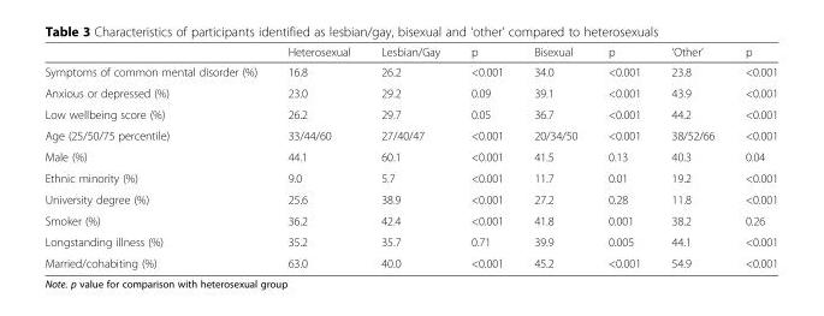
<table><thead><tr><td></td><td>Heterosexual</td><td>Lesbian/Gay</td><td>p</td><td>Bisexual</td><td>p</td><td>‘Other’</td><td>p</td></tr></thead><tbody><tr><td>Symptoms of common mental disorder (%)</td><td>16.8</td><td>26.2</td><td>&lt;0.001</td><td>34.0</td><td>&lt;0.001</td><td>23.8</td><td>&lt;0.001</td></tr><tr><td>Anxious or depressed (%)</td><td>23.0</td><td>29.2</td><td>0.09</td><td>39.1</td><td>&lt;0.001</td><td>43.9</td><td>&lt;0.001</td></tr><tr><td>Low wellbeing score (%)</td><td>26.2</td><td>29.7</td><td>0.05</td><td>36.7</td><td>&lt;0.001</td><td>44.2</td><td>&lt;0.001</td></tr><tr><td>Age (25/50/75 percentile)</td><td>33/44/60</td><td>27/40/47</td><td>&lt;0.001</td><td>20/34/50</td><td>&lt;0.001</td><td>38/52/66</td><td>&lt;0.001</td></tr><tr><td>Male (%)</td><td>44.1</td><td>60.1</td><td>&lt;0.001</td><td>41.5</td><td>0.13</td><td>40.3</td><td>0.04</td></tr><tr><td>Ethnic minority (%)</td><td>9.0</td><td>5.7</td><td>&lt;0.001</td><td>11.7</td><td>0.01</td><td>19.2</td><td>&lt;0.001</td></tr><tr><td>University degree (%)</td><td>25.6</td><td>38.9</td><td>&lt;0.001</td><td>27.2</td><td>0.28</td><td>11.8</td><td>&lt;0.001</td></tr><tr><td>Smoker (%)</td><td>36.2</td><td>42.4</td><td>&lt;0.001</td><td>41.8</td><td>0.001</td><td>38.2</td><td>0.26</td></tr><tr><td>Longstanding illness (%)</td><td>35.2</td><td>35.7</td><td>0.71</td><td>39.9</td><td>0.005</td><td>44.1</td><td>&lt;0.001</td></tr><tr><td>Married/cohabiting (%)</td><td>63.0</td><td>40.0</td><td>&lt;0.001</td><td>45.2</td><td>&lt;0.001</td><td>54.9</td><td>&lt;0.001</td></tr></tbody></table>